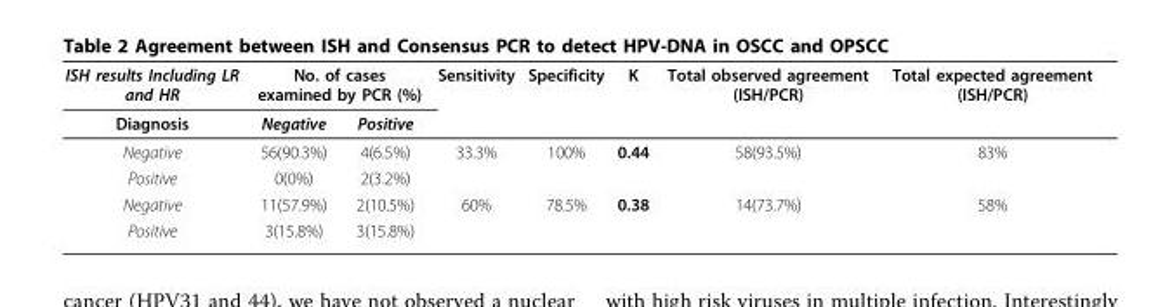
<table><thead><tr><td rowspan="2">ISH results Including LR and HR Diagnosis</td><td colspan="2">No. of cases examined by PCR (%)</td><td rowspan="2">Sensitivity</td><td rowspan="2">Specificity</td><td rowspan="2">K</td><td rowspan="2">Total observed agreement (ISH/PCR)</td><td rowspan="2">Total expected agreement (ISH/PCR)</td></tr><tr><td>Negative</td><td>Positive</td></tr></thead><tbody><tr><td>Negative</td><td>56(90.3%)</td><td>4(6.5%)</td><td>33.3%</td><td>100%</td><td>0.44</td><td>58(93.5%)</td><td>83%</td></tr><tr><td>Positive</td><td>0(0%)</td><td>2(3.2%)</td><td></td><td></td><td></td><td></td><td></td></tr><tr><td>Negative</td><td>11(57.9%)</td><td>2(10.5%)</td><td>60%</td><td>78.5%</td><td>0.38</td><td>14(73.7%)</td><td>58%</td></tr><tr><td>Positive</td><td>3(15.8%)</td><td>3(15.8%)</td><td></td><td></td><td></td><td></td><td></td></tr></tbody></table>